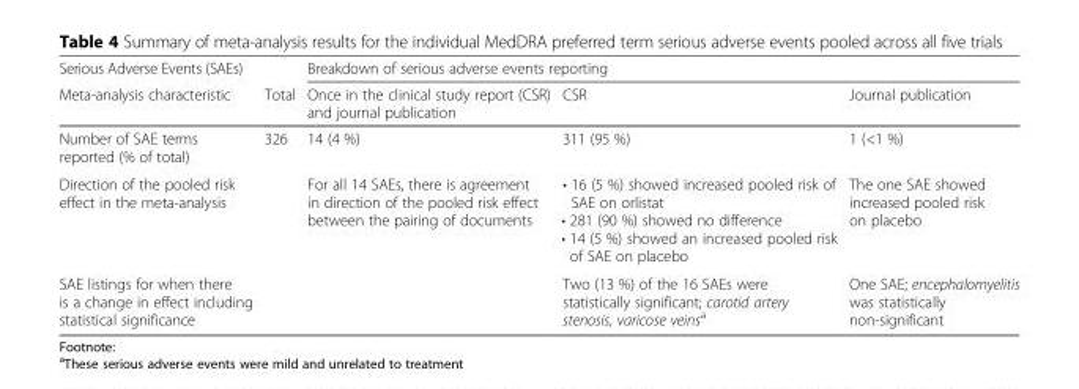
<table><thead><tr><td rowspan="2">Serious Adverse Events (SAEs) Meta-analysis characteristic</td><td rowspan="2">Total</td><td colspan="3">Breakdown of serious adverse events reporting</td></tr><tr><td>Once in the clinical study report (CSR) and journal publication</td><td>CSR</td><td>Journal publication</td></tr></thead><tbody><tr><td>Number of SAE terms reported (% of total)</td><td>326</td><td>14 (4 %)</td><td>311 (95 %)</td><td>1 (&lt;1 %)</td></tr><tr><td>Direction of the pooled risk effect in the meta-analysis</td><td></td><td>For all 14 SAEs, there is agreement in direction of the pooled risk effect between the pairing of documents</td><td>• 16 (5 %) showed increased pooled risk of SAE on orlistat • 281 (90 %) showed no difference • 14 (5 %) showed an increased pooled risk of SAE on placebo</td><td>The one SAE showed increased pooled risk on placebo</td></tr><tr><td>SAE listings for when there is a change in effect including statistical significance</td><td></td><td></td><td>Two (13 %) of the 16 SAEs were statistically significant; carotid artery stenosis, varicose veins<sup>a</sup></td><td>One SAE; encephalomyelitis was statistically non-significant</td></tr></tbody></table>